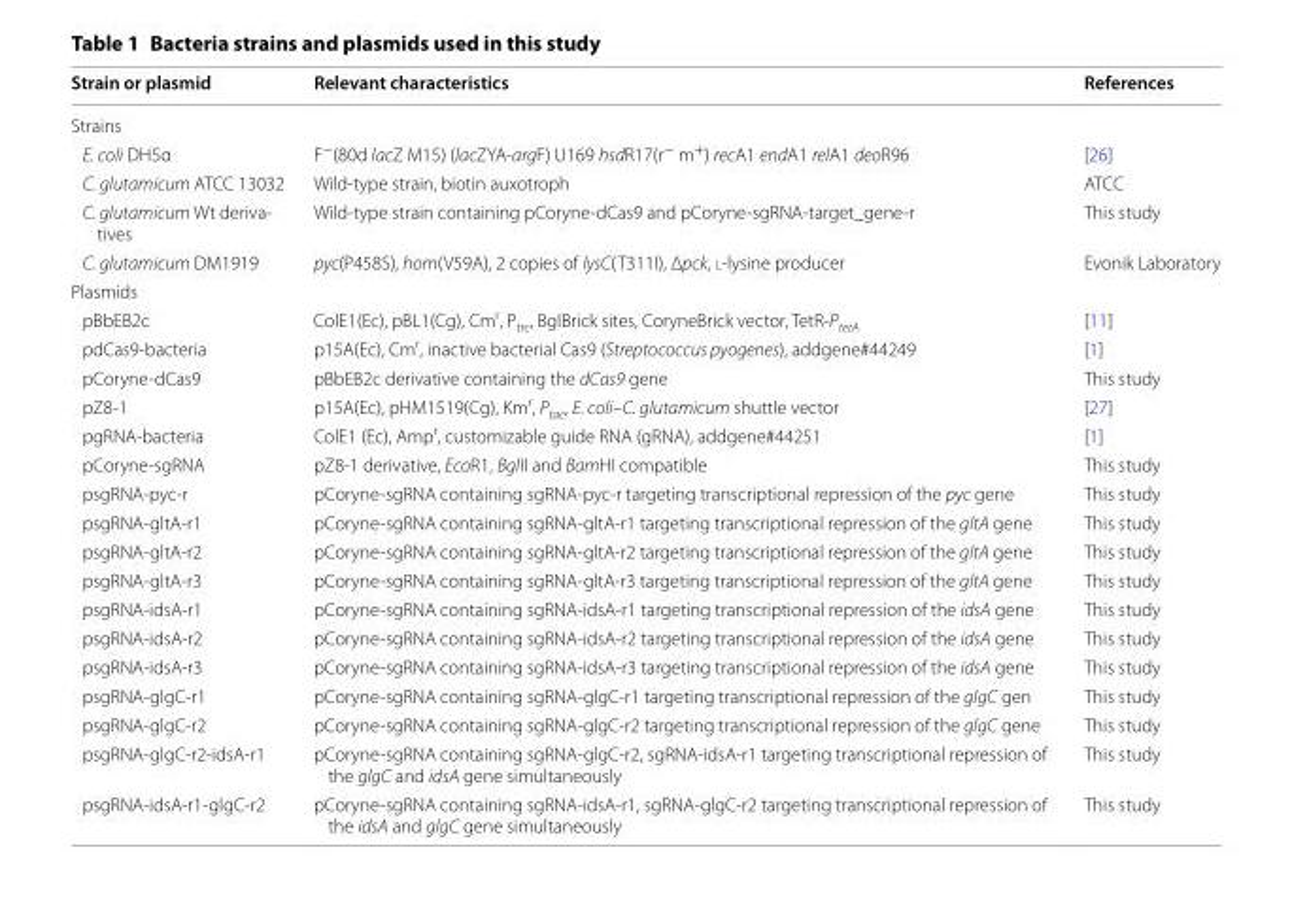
<table><thead><tr><td>Strain or plasmid</td><td>Relevant characteristics</td><td>References</td></tr></thead><tbody><tr><td colspan="3">Strains</td></tr><tr><td>E. coli DH5α</td><td>F<sup>−</sup>(80d lacZ M15) (lacZYA‑argF) U169 hsdR17(r<sup>−</sup> m<sup>+</sup>) recA1 endA1 relA1 deoR96</td><td>[26]</td></tr><tr><td>C. glutamicum ATCC 13032</td><td>Wild‑type strain, biotin auxotroph</td><td>ATCC</td></tr><tr><td>C. glutamicum Wt deriva‑ tives</td><td>Wild‑type strain containing pCoryne‑dCas9 and pCoryne‑sgRNA‑target_gene‑r</td><td>This study</td></tr><tr><td>C. glutamicum DM1919</td><td>pyc(P458S), hom(V59A), 2 copies of lysC(T311I), Δpck, l‑lysine producer</td><td>Evonik Laboratory</td></tr><tr><td colspan="3">Plasmids</td></tr><tr><td>pBbEB2c</td><td>ColE1(Ec), pBL1(Cg), Cm<sup>r</sup>, P<sub>trc</sub>, BglBrick sites, CoryneBrick vector, TetR‑P<sub>tetA</sub></td><td>[11]</td></tr><tr><td>pdCas9‑bacteria</td><td>p15A(Ec), Cm<sup>r</sup>, inactive bacterial Cas9 (Streptococcus pyogenes), addgene#44249</td><td>[1]</td></tr><tr><td>pCoryne‑dCas9</td><td>pBbEB2c derivative containing the dCas9 gene</td><td>This study</td></tr><tr><td>pZ8‑1</td><td>p15A(Ec), pHM1519(Cg), Km<sup>r</sup>, P<sub>tac</sub>, E. coli–C. glutamicum shuttle vector</td><td>[27]</td></tr><tr><td>pgRNA‑bacteria</td><td>ColE1 (Ec), Amp<sup>r</sup>, customizable guide RNA (gRNA), addgene#44251</td><td>[1]</td></tr><tr><td>pCoryne‑sgRNA</td><td>pZ8‑1 derivative, EcoR1, BglII and BamHI compatible</td><td>This study</td></tr><tr><td>psgRNA‑pyc‑r</td><td>pCoryne‑sgRNA containing sgRNA‑pyc‑r targeting transcriptional repression of the pyc gene</td><td>This study</td></tr><tr><td>psgRNA‑gltA‑r1</td><td>pCoryne‑sgRNA containing sgRNA‑gltA‑r1 targeting transcriptional repression of the gltA gene</td><td>This study</td></tr><tr><td>psgRNA‑gltA‑r2</td><td>pCoryne‑sgRNA containing sgRNA‑gltA‑r2 targeting transcriptional repression of the gltA gene</td><td>This study</td></tr><tr><td>psgRNA‑gltA‑r3</td><td>pCoryne‑sgRNA containing sgRNA‑gltA‑r3 targeting transcriptional repression of the gltA gene</td><td>This study</td></tr><tr><td>psgRNA‑idsA‑r1</td><td>pCoryne‑sgRNA containing sgRNA‑idsA‑r1 targeting transcriptional repression of the idsA gene</td><td>This study</td></tr><tr><td>psgRNA‑idsA‑r2</td><td>pCoryne‑sgRNA containing sgRNA‑idsA‑r2 targeting transcriptional repression of the idsA gene</td><td>This study</td></tr><tr><td>psgRNA‑idsA‑r3</td><td>pCoryne‑sgRNA containing sgRNA‑idsA‑r3 targeting transcriptional repression of the idsA gene</td><td>This study</td></tr><tr><td>psgRNA‑glgC‑r1</td><td>pCoryne‑sgRNA containing sgRNA‑glgC‑r1 targeting transcriptional repression of the glgC gen</td><td>This study</td></tr><tr><td>psgRNA‑glgC‑r2</td><td>pCoryne‑sgRNA containing sgRNA‑glgC‑r2 targeting transcriptional repression of the glgC gene</td><td>This study</td></tr><tr><td>psgRNA‑glgC‑r2‑idsA‑r1</td><td>pCoryne‑sgRNA containing sgRNA‑glgC‑r2, sgRNA‑idsA‑r1 targeting transcriptional repression of the glgC and idsA gene simultaneously</td><td>This study</td></tr><tr><td>psgRNA‑idsA‑r1‑glgC‑r2</td><td>pCoryne‑sgRNA containing sgRNA‑idsA‑r1, sgRNA‑glgC‑r2 targeting transcriptional repression of the idsA and glgC gene simultaneously</td><td>This study</td></tr></tbody></table>